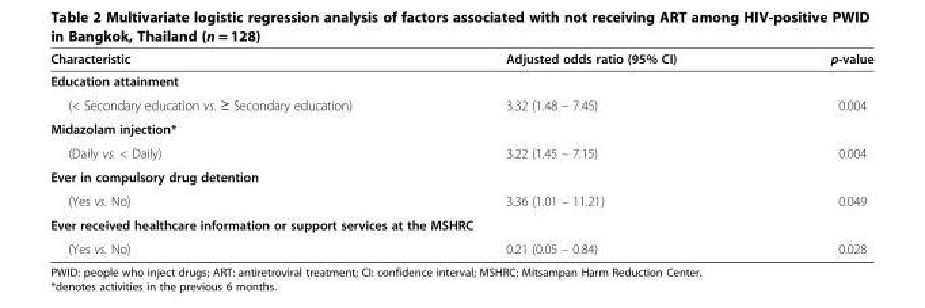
<table><thead><tr><td>Characteristic</td><td>Adjusted odds ratio (95% CI)</td><td>p-value</td></tr></thead><tbody><tr><td colspan="3">Education attainment</td></tr><tr><td>(&lt; Secondary education vs. ≥ Secondary education)</td><td>3.32 (1.48 – 7.45)</td><td>0.004</td></tr><tr><td colspan="3">Midazolam injection*</td></tr><tr><td>(Daily vs. &lt; Daily)</td><td>3.22 (1.45 – 7.15)</td><td>0.004</td></tr><tr><td colspan="3">Ever in compulsory drug detention</td></tr><tr><td>(Yes vs. No)</td><td>3.36 (1.01 – 11.21)</td><td>0.049</td></tr><tr><td colspan="3">Ever received healthcare information or support services at the MSHRC</td></tr><tr><td>(Yes vs. No)</td><td>0.21 (0.05 – 0.84)</td><td>0.028</td></tr></tbody></table>